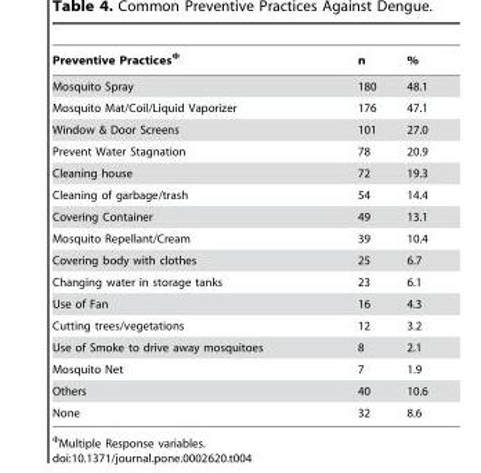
<table><thead><tr><td>Preventive PracticesΦ</td><td>n</td><td>%</td></tr></thead><tbody><tr><td>Mosquito Spray</td><td>180</td><td>48.1</td></tr><tr><td>Mosquito Mat/Coil/Liquid Vaporizer</td><td>176</td><td>47.1</td></tr><tr><td>Window &amp; Door Screens</td><td>101</td><td>27.0</td></tr><tr><td>Prevent Water Stagnation</td><td>78</td><td>20.9</td></tr><tr><td>Cleaning house</td><td>72</td><td>19.3</td></tr><tr><td>Cleaning of garbage/trash</td><td>54</td><td>14.4</td></tr><tr><td>Covering Container</td><td>49</td><td>13.1</td></tr><tr><td>Mosquito Repellant/Cream</td><td>39</td><td>10.4</td></tr><tr><td>Covering body with clothes</td><td>25</td><td>6.7</td></tr><tr><td>Changing water in storage tanks</td><td>23</td><td>6.1</td></tr><tr><td>Use of Fan</td><td>16</td><td>4.3</td></tr><tr><td>Cutting trees/vegetations</td><td>12</td><td>3.2</td></tr><tr><td>Use of Smoke to drive away mosquitoes</td><td>8</td><td>2.1</td></tr><tr><td>Mosquito Net</td><td>7</td><td>1.9</td></tr><tr><td>Others</td><td>40</td><td>10.6</td></tr><tr><td>None</td><td>32</td><td>8.6</td></tr></tbody></table>